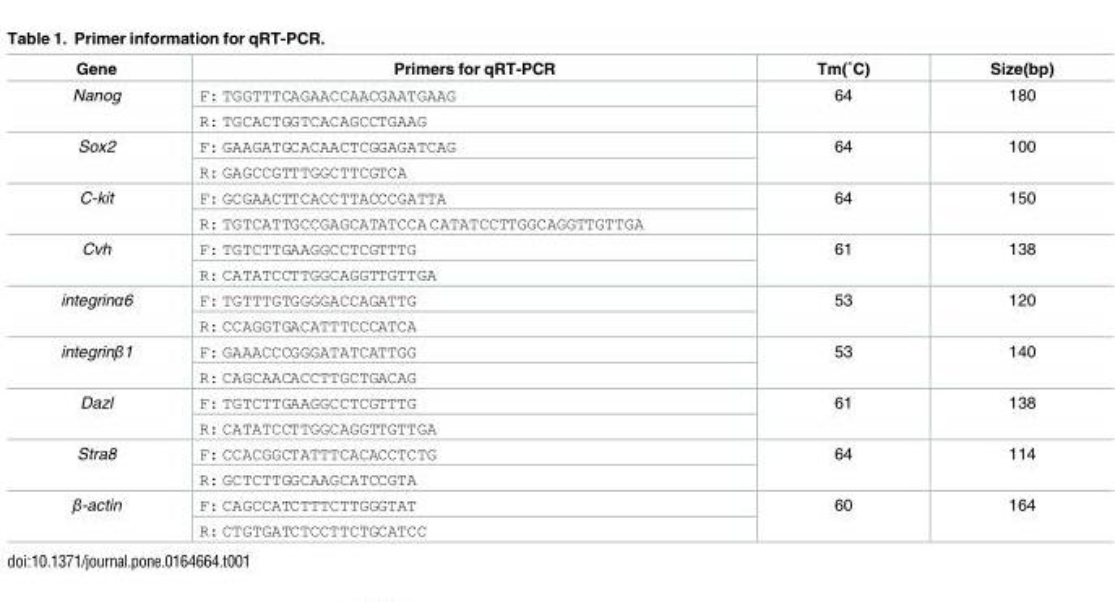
<table><thead><tr><td>Gene</td><td>Primers for qRT-PCR</td><td>Tm(˚C)</td><td>Size(bp)</td></tr></thead><tbody><tr><td rowspan="2">Nanog</td><td>F: TGGTTTCAGAACCAACGAATGAAG</td><td rowspan="2">64</td><td rowspan="2">180</td></tr><tr><td>R: TGCACTGGTCACAGCCTGAAG</td></tr><tr><td rowspan="2">Sox2</td><td>F: GAAGATGCACAACTCGGAGATCAG</td><td rowspan="2">64</td><td rowspan="2">100</td></tr><tr><td>R: GAGCCGTTTGGCTTCGTCA</td></tr><tr><td rowspan="2">C-kit</td><td>F: GCGAACTTCACCTTACCCGATTA</td><td rowspan="2">64</td><td rowspan="2">150</td></tr><tr><td>R: TGTCATTGCCGAGCATATCCA CATATCCTTGGCAGGTTGTTGA</td></tr><tr><td rowspan="2">Cvh</td><td>F: TGTCTTGAAGGCCTCGTTTG</td><td rowspan="2">61</td><td rowspan="2">138</td></tr><tr><td>R: CATATCCTTGGCAGGTTGTTGA</td></tr><tr><td rowspan="2">integrinα6</td><td>F: TGTTTGTGGGGACCAGATTG</td><td rowspan="2">53</td><td rowspan="2">120</td></tr><tr><td>R: CCAGGTGACATTTCCCATCA</td></tr><tr><td rowspan="2">integrinβ1</td><td>F: GAAACCCGGGATATCATTGG</td><td rowspan="2">53</td><td rowspan="2">140</td></tr><tr><td>R: CAGCAACACCTTGCTGACAG</td></tr><tr><td rowspan="2">Dazl</td><td>F: TGTCTTGAAGGCCTCGTTTG</td><td rowspan="2">61</td><td rowspan="2">138</td></tr><tr><td>R: CATATCCTTGGCAGGTTGTTGA</td></tr><tr><td rowspan="2">Stra8</td><td>F: CCACGGCTATTTCACACCTCTG</td><td rowspan="2">64</td><td rowspan="2">114</td></tr><tr><td>R: GCTCTTGGCAAGCATCCGTA</td></tr><tr><td rowspan="2">β-actin</td><td>F: CAGCCATCTTTCTTGGGTAT</td><td rowspan="2">60</td><td rowspan="2">164</td></tr><tr><td>R: CTGTGATCTCCTTCTGCATCC</td></tr></tbody></table>